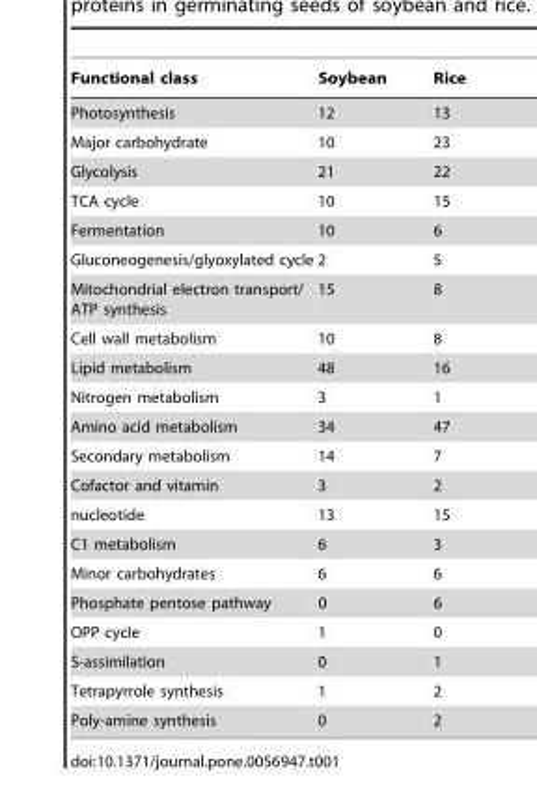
<table><thead><tr><td>Functional class</td><td>Soybean</td><td>Rice</td></tr></thead><tbody><tr><td>Photosynthesis</td><td>12</td><td>13</td></tr><tr><td>Major carbohydrate</td><td>10</td><td>23</td></tr><tr><td>Glycolysis</td><td>21</td><td>22</td></tr><tr><td>TCA cycle</td><td>10</td><td>15</td></tr><tr><td>Fermentation</td><td>10</td><td>6</td></tr><tr><td>Gluconeogenesis/glyoxylated cycle</td><td>2</td><td>5</td></tr><tr><td>Mitochondrial electron transport/ ATP synthesis</td><td>15</td><td>8</td></tr><tr><td>Cell wall metabolism</td><td>10</td><td>8</td></tr><tr><td>Lipid metabolism</td><td>48</td><td>16</td></tr><tr><td>Nitrogen metabolism</td><td>3</td><td>1</td></tr><tr><td>Amino acid metabolism</td><td>34</td><td>47</td></tr><tr><td>Secondary metabolism</td><td>14</td><td>7</td></tr><tr><td>Cofactor and vitamin</td><td>3</td><td>2</td></tr><tr><td>nucleotide</td><td>13</td><td>15</td></tr><tr><td>C1 metabolism</td><td>6</td><td>3</td></tr><tr><td>Minor carbohydrates</td><td>6</td><td>6</td></tr><tr><td>Phosphate pentose pathway</td><td>0</td><td>6</td></tr><tr><td>OPP cycle</td><td>1</td><td>0</td></tr><tr><td>S-assimilation</td><td>0</td><td>1</td></tr><tr><td>Tetrapyrrole synthesis</td><td>1</td><td>2</td></tr><tr><td>Poly-amine synthesis</td><td>0</td><td>2</td></tr></tbody></table>